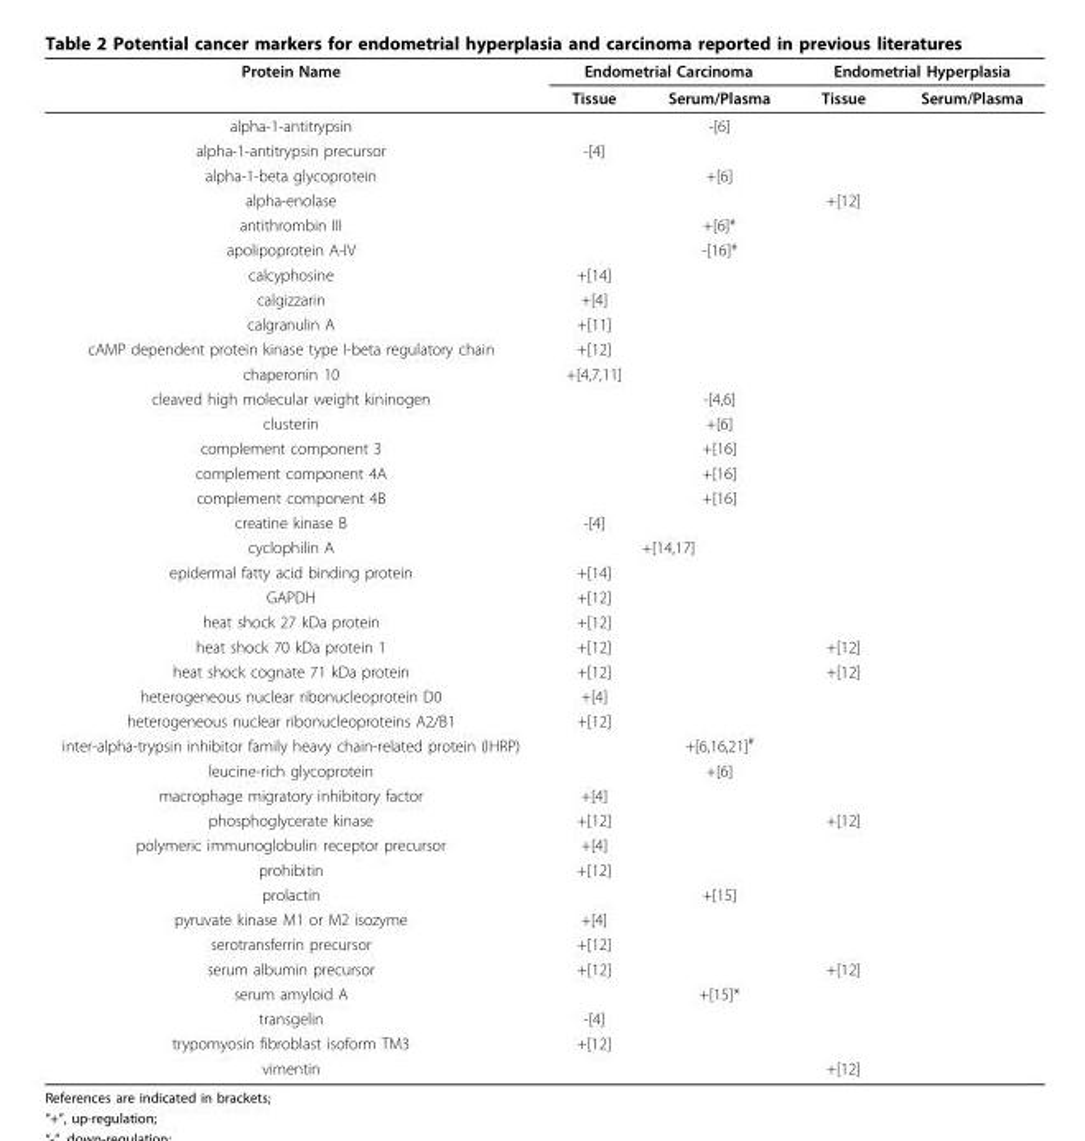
<table><thead><tr><td rowspan="2">Protein Name</td><td colspan="2">Endometrial Carcinoma</td><td colspan="2">Endometrial Hyperplasia</td></tr><tr><td>Tissue</td><td>Serum/Plasma</td><td>Tissue</td><td>Serum/Plasma</td></tr></thead><tbody><tr><td>alpha-1-antitrypsin</td><td></td><td>-[6]</td><td></td><td></td></tr><tr><td>alpha-1-antitrypsin precursor</td><td>-[4]</td><td></td><td></td><td></td></tr><tr><td>alpha-1-beta glycoprotein</td><td></td><td>+[6]</td><td></td><td></td></tr><tr><td>alpha-enolase</td><td></td><td></td><td>+[12]</td><td></td></tr><tr><td>antithrombin III</td><td></td><td>+[6]*</td><td></td><td></td></tr><tr><td>apolipoprotein A-IV</td><td></td><td>-[16]*</td><td></td><td></td></tr><tr><td>calcyphosine</td><td>+[14]</td><td></td><td></td><td></td></tr><tr><td>calgizzarin</td><td>+[4]</td><td></td><td></td><td></td></tr><tr><td>calgranulin A</td><td>+[11]</td><td></td><td></td><td></td></tr><tr><td>cAMP dependent protein kinase type I-beta regulatory chain</td><td>+[12]</td><td></td><td></td><td></td></tr><tr><td>chaperonin 10</td><td>+[4,7,11]</td><td></td><td></td><td></td></tr><tr><td>cleaved high molecular weight kininogen</td><td></td><td>-[4,6]</td><td></td><td></td></tr><tr><td>clusterin</td><td></td><td>+[6]</td><td></td><td></td></tr><tr><td>complement component 3</td><td></td><td>+[16]</td><td></td><td></td></tr><tr><td>complement component 4A</td><td></td><td>+[16]</td><td></td><td></td></tr><tr><td>complement component 4B</td><td></td><td>+[16]</td><td></td><td></td></tr><tr><td>creatine kinase B</td><td>-[4]</td><td></td><td></td><td></td></tr><tr><td>cyclophilin A</td><td colspan="2">+[14,17]</td><td></td><td></td></tr><tr><td>epidermal fatty acid binding protein</td><td>+[14]</td><td></td><td></td><td></td></tr><tr><td>GAPDH</td><td>+[12]</td><td></td><td></td><td></td></tr><tr><td>heat shock 27 kDa protein</td><td>+[12]</td><td></td><td></td><td></td></tr><tr><td>heat shock 70 kDa protein 1</td><td>+[12]</td><td></td><td>+[12]</td><td></td></tr><tr><td>heat shock cognate 71 kDa protein</td><td>+[12]</td><td></td><td>+[12]</td><td></td></tr><tr><td>heterogeneous nuclear ribonucleoprotein D0</td><td>+[4]</td><td></td><td></td><td></td></tr><tr><td>heterogeneous nuclear ribonucleoproteins A2/B1</td><td>+[12]</td><td></td><td></td><td></td></tr><tr><td>inter-alpha-trypsin inhibitor family heavy chain-related protein (IHRP)</td><td></td><td>+[6,16,21]<sup>#</sup></td><td></td><td></td></tr><tr><td>leucine-rich glycoprotein</td><td></td><td>+[6]</td><td></td><td></td></tr><tr><td>macrophage migratory inhibitory factor</td><td>+[4]</td><td></td><td></td><td></td></tr><tr><td>phosphoglycerate kinase</td><td>+[12]</td><td></td><td>+[12]</td><td></td></tr><tr><td>polymeric immunoglobulin receptor precursor</td><td>+[4]</td><td></td><td></td><td></td></tr><tr><td>prohibitin</td><td>+[12]</td><td></td><td></td><td></td></tr><tr><td>prolactin</td><td></td><td>+[15]</td><td></td><td></td></tr><tr><td>pyruvate kinase M1 or M2 isozyme</td><td>+[4]</td><td></td><td></td><td></td></tr><tr><td>serotransferrin precursor</td><td>+[12]</td><td></td><td></td><td></td></tr><tr><td>serum albumin precursor</td><td>+[12]</td><td></td><td>+[12]</td><td></td></tr><tr><td>serum amyloid A</td><td></td><td>+[15]*</td><td></td><td></td></tr><tr><td>transgelin</td><td>-[4]</td><td></td><td></td><td></td></tr><tr><td>trypomyosin fibroblast isoform TM3</td><td>+[12]</td><td></td><td></td><td></td></tr><tr><td>vimentin</td><td></td><td></td><td>+[12]</td><td></td></tr></tbody></table>